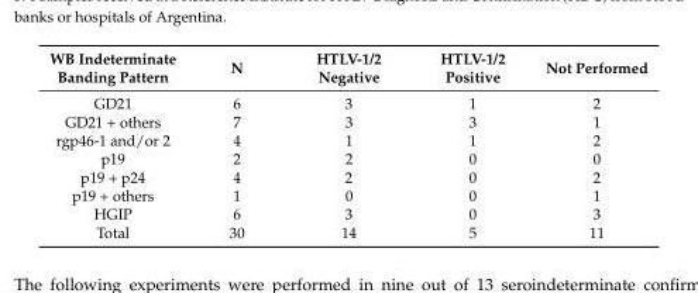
<table><thead><tr><td>WB Indeterminate Banding Pattern</td><td>N</td><td>HTLV-1/2 Negative</td><td>HTLV-1/2 Positive</td><td>Not Performed</td></tr></thead><tbody><tr><td>GD21</td><td>6</td><td>3</td><td>1</td><td>2</td></tr><tr><td>GD21 + others</td><td>7</td><td>3</td><td>3</td><td>1</td></tr><tr><td>rgp46-1 and/or 2</td><td>4</td><td>1</td><td>1</td><td>2</td></tr><tr><td>p19</td><td>2</td><td>2</td><td>0</td><td>0</td></tr><tr><td>p19 + p24</td><td>4</td><td>2</td><td>0</td><td>2</td></tr><tr><td>p19 + others</td><td>1</td><td>0</td><td>0</td><td>1</td></tr><tr><td>HGIP</td><td>6</td><td>3</td><td>0</td><td>3</td></tr><tr><td>Total</td><td>30</td><td>14</td><td>5</td><td>11</td></tr></tbody></table>